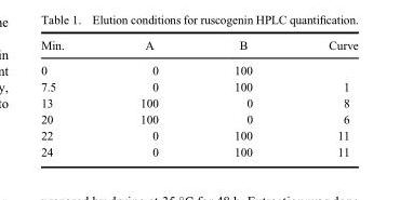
<table><thead><tr><td>Min.</td><td>A</td><td>B</td><td>Curve</td></tr></thead><tbody><tr><td>0</td><td>0</td><td>100</td><td></td></tr><tr><td>7.5</td><td>0</td><td>100</td><td>1</td></tr><tr><td>13</td><td>100</td><td>0</td><td>8</td></tr><tr><td>20</td><td>100</td><td>0</td><td>6</td></tr><tr><td>22</td><td>0</td><td>100</td><td>11</td></tr><tr><td>24</td><td>0</td><td>100</td><td>11</td></tr></tbody></table>